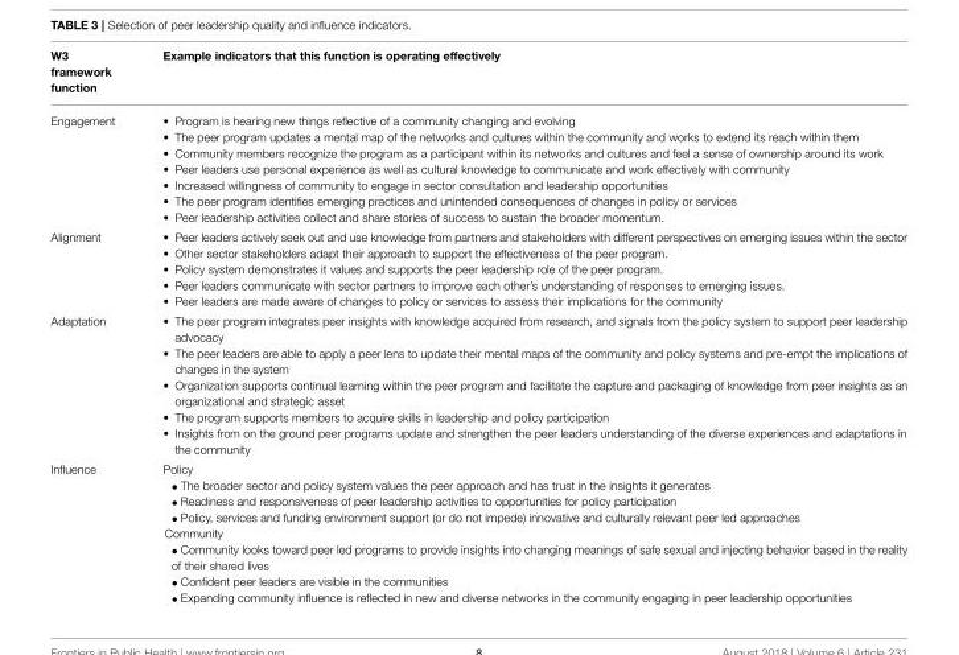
<table><thead><tr><td>W3 framework function</td><td>Example indicators that this function is operating effectively</td></tr></thead><tbody><tr><td>Engagement</td><td>• Program is hearing new things reflective of a community changing and evolving • The peer program updates a mental map of the networks and cultures within the community and works to extend its reach within them • Community members recognize the program as a participant within its networks and cultures and feel a sense of ownership around its work • Peer leaders use personal experience as well as cultural knowledge to communicate and work effectively with community • Increased willingness of community to engage in sector consultation and leadership opportunities • The peer program identifies emerging practices and unintended consequences of changes in policy or services • Peer leadership activities collect and share stories of success to sustain the broader momentum.</td></tr><tr><td>Alignment</td><td>• Peer leaders actively seek out and use knowledge from partners and stakeholders with different perspectives on emerging issues within the sector • Other sector stakeholders adapt their approach to support the effectiveness of the peer program. • Policy system demonstrates it values and supports the peer leadership role of the peer program. • Peer leaders communicate with sector partners to improve each other’s understanding of responses to emerging issues. • Peer leaders are made aware of changes to policy or services to assess their implications for the community</td></tr><tr><td>Adaptation</td><td>• The peer program integrates peer insights with knowledge acquired from research, and signals from the policy system to support peer leadership advocacy • The peer leaders are able to apply a peer lens to update their mental maps of the community and policy systems and pre-empt the implications of changes in the system • Organization supports continual learning within the peer program and facilitate the capture and packaging of knowledge from peer insights as an organizational and strategic asset • The program supports members to acquire skills in leadership and policy participation • Insights from on the ground peer programs update and strengthen the peer leaders understanding of the diverse experiences and adaptations in the community</td></tr><tr><td rowspan="2">Influence</td><td>Policy • The broader sector and policy system values the peer approach and has trust in the insights it generates • Readiness and responsiveness of peer leadership activities to opportunities for policy participation • Policy, services and funding environment support (or do not impede) innovative and culturally relevant peer led approaches</td></tr><tr><td>Community • Community looks toward peer led programs to provide insights into changing meanings of safe sexual and injecting behavior based in the reality of their shared lives • Confident peer leaders are visible in the communities • Expanding community influence is reflected in new and diverse networks in the community engaging in peer leadership opportunities</td></tr></tbody></table>